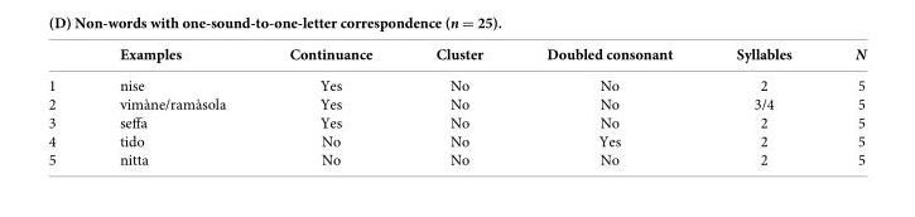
<table><thead><tr><td></td><td>Examples</td><td>Continuance</td><td>Cluster</td><td>Doubled consonant</td><td>Syllables</td><td>N</td></tr></thead><tbody><tr><td>1</td><td>nise</td><td>Yes</td><td>No</td><td>No</td><td>2</td><td>5</td></tr><tr><td>2</td><td>vimàne/ramàsola</td><td>Yes</td><td>No</td><td>No</td><td>3/4</td><td>5</td></tr><tr><td>3</td><td>seffa</td><td>Yes</td><td>No</td><td>No</td><td>2</td><td>5</td></tr><tr><td>4</td><td>tido</td><td>No</td><td>No</td><td>Yes</td><td>2</td><td>5</td></tr><tr><td>5</td><td>nitta</td><td>No</td><td>No</td><td>No</td><td>2</td><td>5</td></tr></tbody></table>